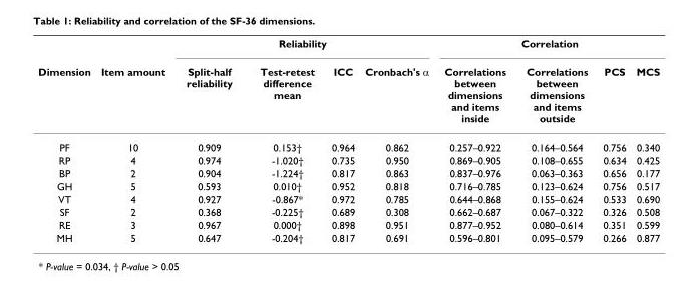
<table><thead><tr><td rowspan="2">Dimension</td><td rowspan="2">Item amount</td><td colspan="4">Reliability</td><td colspan="4">Correlation</td></tr><tr><td>Split-half reliability</td><td>Test-retest difference mean</td><td>ICC</td><td>Cronbach&#x27;s α</td><td>Correlations between dimensions and items inside</td><td>Correlations between dimensions and items outside</td><td>PCS</td><td>MCS</td></tr></thead><tbody><tr><td>PF</td><td>10</td><td>0.909</td><td>0.153†</td><td>0.964</td><td>0.862</td><td>0.257–0.922</td><td>0.164–0.564</td><td>0.756</td><td>0.340</td></tr><tr><td>RP</td><td>4</td><td>0.974</td><td>-1.020†</td><td>0.735</td><td>0.950</td><td>0.869–0.905</td><td>0.108–0.655</td><td>0.634</td><td>0.425</td></tr><tr><td>BP</td><td>2</td><td>0.904</td><td>-1.224†</td><td>0.817</td><td>0.863</td><td>0.837–0.976</td><td>0.063–0.363</td><td>0.656</td><td>0.177</td></tr><tr><td>GH</td><td>5</td><td>0.593</td><td>0.010†</td><td>0.952</td><td>0.818</td><td>0.716–0.785</td><td>0.123–0.624</td><td>0.756</td><td>0.517</td></tr><tr><td>VT</td><td>4</td><td>0.927</td><td>-0.867*</td><td>0.972</td><td>0.785</td><td>0.644–0.868</td><td>0.155–0.624</td><td>0.533</td><td>0.690</td></tr><tr><td>SF</td><td>2</td><td>0.368</td><td>-0.225†</td><td>0.689</td><td>0.308</td><td>0.662–0.687</td><td>0.067–0.322</td><td>0.326</td><td>0.508</td></tr><tr><td>RE</td><td>3</td><td>0.967</td><td>0.000†</td><td>0.898</td><td>0.951</td><td>0.877–0.952</td><td>0.080–0.614</td><td>0.351</td><td>0.599</td></tr><tr><td>MH</td><td>5</td><td>0.647</td><td>-0.204†</td><td>0.817</td><td>0.691</td><td>0.596–0.801</td><td>0.095–0.579</td><td>0.266</td><td>0.877</td></tr></tbody></table>